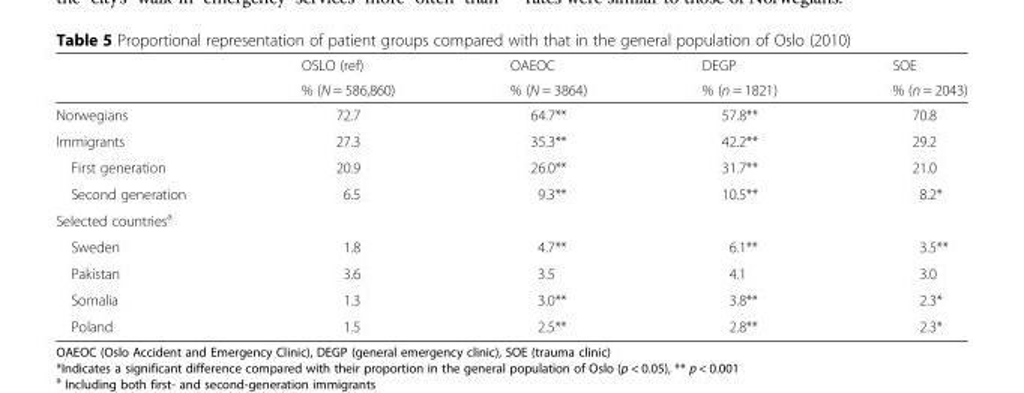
<table><thead><tr><td rowspan="2"></td><td rowspan="2">OSLO (ref) % (N = 586,860)</td><td rowspan="2">OAEOC % (N = 3864)</td><td rowspan="2">DEGP % (n = 1821)</td><td rowspan="2">SOE % (n = 2043)</td></tr><tr></tr></thead><tbody><tr><td>Norwegians</td><td>72.7</td><td>64.7**</td><td>57.8**</td><td>70.8</td></tr><tr><td>Immigrants</td><td>27.3</td><td>35.3**</td><td>42.2**</td><td>29.2</td></tr><tr><td>First generation</td><td>20.9</td><td>26.0**</td><td>31.7**</td><td>21.0</td></tr><tr><td>Second generation</td><td>6.5</td><td>9.3**</td><td>10.5**</td><td>8.2*</td></tr><tr><td colspan="5">Selected countries<sup>a</sup></td></tr><tr><td>Sweden</td><td>1.8</td><td>4.7**</td><td>6.1**</td><td>3.5**</td></tr><tr><td>Pakistan</td><td>3.6</td><td>3.5</td><td>4.1</td><td>3.0</td></tr><tr><td>Somalia</td><td>1.3</td><td>3.0**</td><td>3.8**</td><td>2.3*</td></tr><tr><td>Poland</td><td>1.5</td><td>2.5**</td><td>2.8**</td><td>2.3*</td></tr></tbody></table>